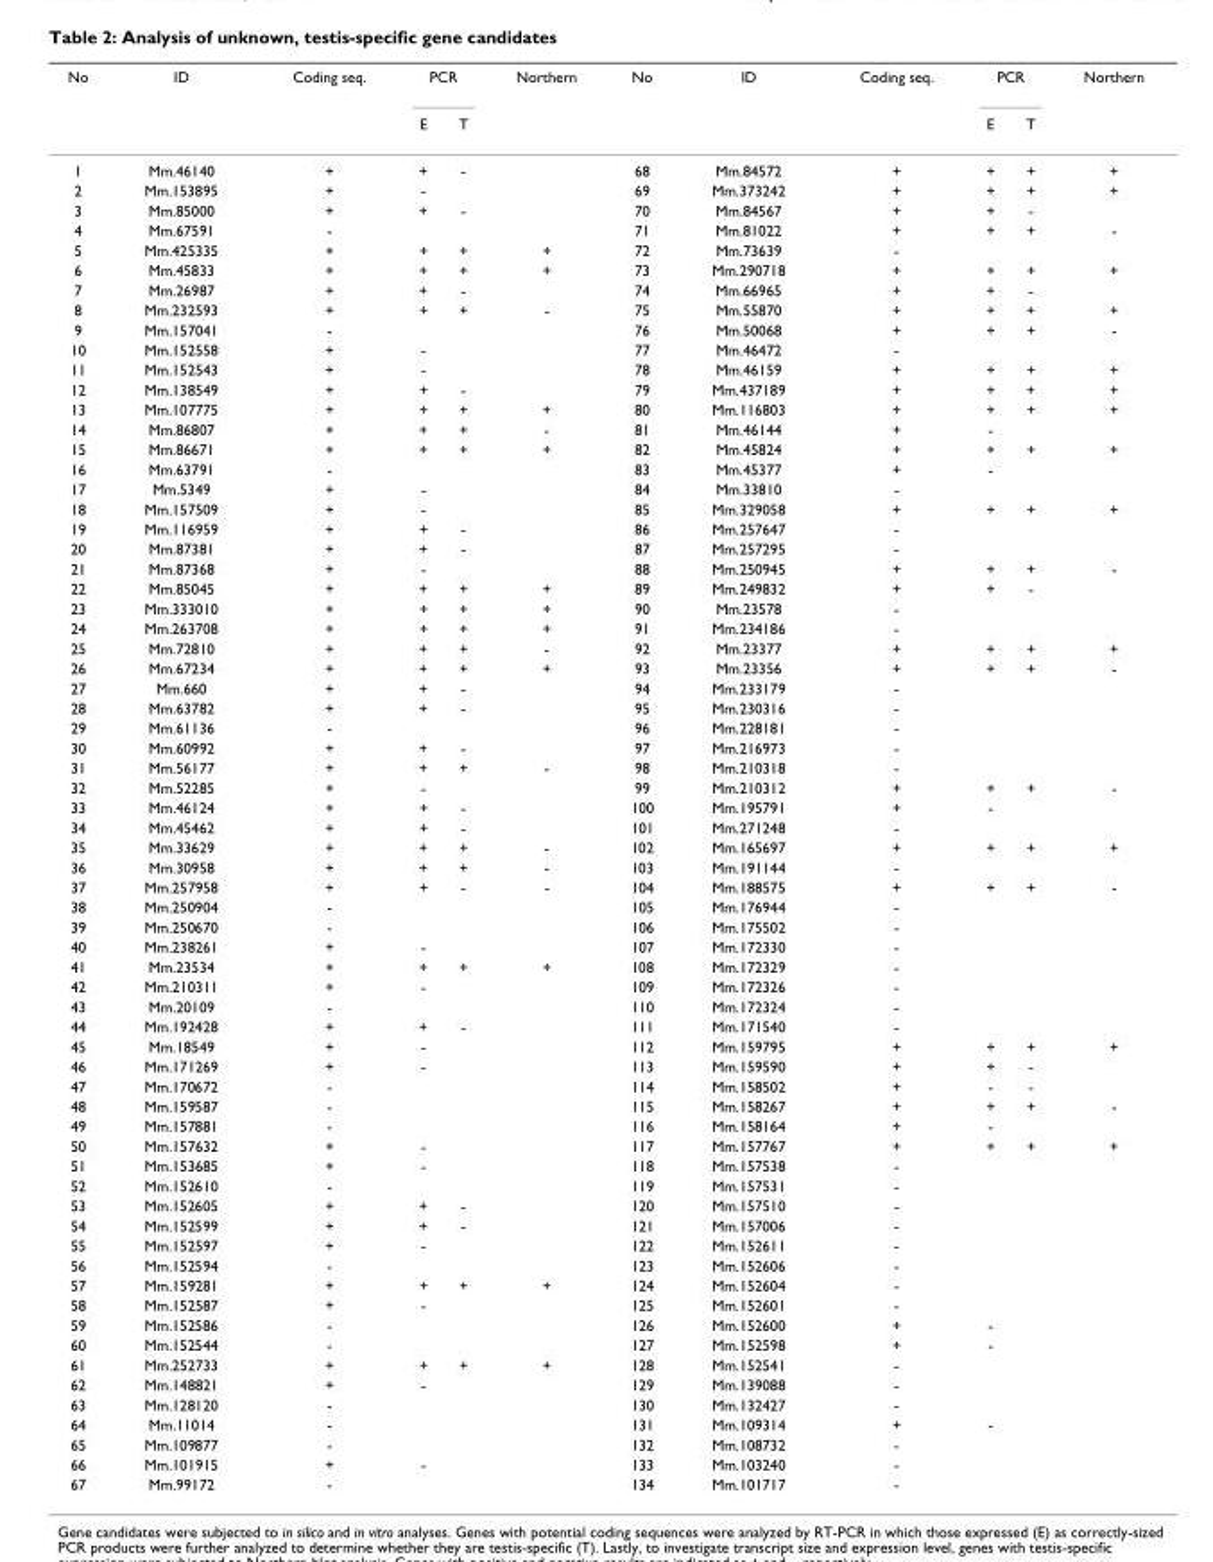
<table><thead><tr><td rowspan="2">No</td><td rowspan="2">ID</td><td rowspan="2">Coding seq.</td><td colspan="2">PCR</td><td rowspan="2">Northern</td><td rowspan="2">No</td><td rowspan="2">ID</td><td rowspan="2">Coding seq.</td><td colspan="2">PCR</td><td rowspan="2">Northern</td></tr><tr><td>E</td><td>T</td><td>E</td><td>T</td></tr></thead><tbody><tr><td>1</td><td>Mm.46140</td><td>+</td><td>+</td><td>-</td><td></td><td>68</td><td>Mm.84572</td><td>+</td><td>+</td><td>+</td><td>+</td></tr><tr><td>2</td><td>Mm.153895</td><td>+</td><td>-</td><td></td><td></td><td>69</td><td>Mm.373242</td><td>+</td><td>+</td><td>+</td><td>+</td></tr><tr><td>3</td><td>Mm.85000</td><td>+</td><td>+</td><td>-</td><td></td><td>70</td><td>Mm.84567</td><td>+</td><td>+</td><td>-</td><td></td></tr><tr><td>4</td><td>Mm.67591</td><td>-</td><td></td><td></td><td></td><td>71</td><td>Mm.81022</td><td>+</td><td>+</td><td>+</td><td>-</td></tr><tr><td>5</td><td>Mm.425335</td><td>+</td><td>+</td><td>+</td><td>+</td><td>72</td><td>Mm.73639</td><td>-</td><td></td><td></td><td></td></tr><tr><td>6</td><td>Mm.45833</td><td>+</td><td>+</td><td>+</td><td>+</td><td>73</td><td>Mm.290718</td><td>+</td><td>+</td><td>+</td><td>+</td></tr><tr><td>7</td><td>Mm.26987</td><td>+</td><td>+</td><td>-</td><td></td><td>74</td><td>Mm.66965</td><td>+</td><td>+</td><td>-</td><td></td></tr><tr><td>8</td><td>Mm.232593</td><td>+</td><td>+</td><td>+</td><td>-</td><td>75</td><td>Mm.55870</td><td>+</td><td>+</td><td>+</td><td>+</td></tr><tr><td>9</td><td>Mm.157041</td><td>-</td><td></td><td></td><td></td><td>76</td><td>Mm.50068</td><td>+</td><td>+</td><td>+</td><td>-</td></tr><tr><td>10</td><td>Mm.152558</td><td>+</td><td>-</td><td></td><td></td><td>77</td><td>Mm.46472</td><td>-</td><td></td><td></td><td></td></tr><tr><td>11</td><td>Mm.152543</td><td>+</td><td>-</td><td></td><td></td><td>78</td><td>Mm.46159</td><td>+</td><td>+</td><td>+</td><td>+</td></tr><tr><td>12</td><td>Mm.138549</td><td>+</td><td>+</td><td>-</td><td></td><td>79</td><td>Mm.437189</td><td>+</td><td>+</td><td>+</td><td>+</td></tr><tr><td>13</td><td>Mm.107775</td><td>+</td><td>+</td><td>+</td><td>+</td><td>80</td><td>Mm.116803</td><td>+</td><td>+</td><td>+</td><td>+</td></tr><tr><td>14</td><td>Mm.86807</td><td>+</td><td>+</td><td>+</td><td>-</td><td>81</td><td>Mm.46144</td><td>+</td><td>-</td><td></td><td></td></tr><tr><td>15</td><td>Mm.86671</td><td>+</td><td>+</td><td>+</td><td>+</td><td>82</td><td>Mm.45824</td><td>+</td><td>+</td><td>+</td><td>+</td></tr><tr><td>16</td><td>Mm.63791</td><td>-</td><td></td><td></td><td></td><td>83</td><td>Mm.45377</td><td>+</td><td>-</td><td></td><td></td></tr><tr><td>17</td><td>Mm.5349</td><td>+</td><td>-</td><td></td><td></td><td>84</td><td>Mm.33810</td><td>-</td><td></td><td></td><td></td></tr><tr><td>18</td><td>Mm.157509</td><td>+</td><td>-</td><td></td><td></td><td>85</td><td>Mm.329058</td><td>+</td><td>+</td><td>+</td><td>+</td></tr><tr><td>19</td><td>Mm.116959</td><td>+</td><td>+</td><td>-</td><td></td><td>86</td><td>Mm.257647</td><td>-</td><td></td><td></td><td></td></tr><tr><td>20</td><td>Mm.87381</td><td>+</td><td>+</td><td>-</td><td></td><td>87</td><td>Mm.257295</td><td>-</td><td></td><td></td><td></td></tr><tr><td>21</td><td>Mm.87368</td><td>+</td><td>-</td><td></td><td></td><td>88</td><td>Mm.250945</td><td>+</td><td>+</td><td>+</td><td>-</td></tr><tr><td>22</td><td>Mm.85045</td><td>+</td><td>+</td><td>+</td><td>+</td><td>89</td><td>Mm.249832</td><td>+</td><td>+</td><td>-</td><td></td></tr><tr><td>23</td><td>Mm.333010</td><td>+</td><td>+</td><td>+</td><td>+</td><td>90</td><td>Mm.23578</td><td>-</td><td></td><td></td><td></td></tr><tr><td>24</td><td>Mm.263708</td><td>+</td><td>+</td><td>+</td><td>+</td><td>91</td><td>Mm.234186</td><td>-</td><td></td><td></td><td></td></tr><tr><td>25</td><td>Mm.72810</td><td>+</td><td>+</td><td>+</td><td>-</td><td>92</td><td>Mm.23377</td><td>+</td><td>+</td><td>+</td><td>+</td></tr><tr><td>26</td><td>Mm.67234</td><td>+</td><td>+</td><td>+</td><td>+</td><td>93</td><td>Mm.23356</td><td>+</td><td>+</td><td>+</td><td>-</td></tr><tr><td>27</td><td>Mm.660</td><td>+</td><td>+</td><td>-</td><td></td><td>94</td><td>Mm.233179</td><td>-</td><td></td><td></td><td></td></tr><tr><td>28</td><td>Mm.63782</td><td>+</td><td>+</td><td>-</td><td></td><td>95</td><td>Mm.230316</td><td>-</td><td></td><td></td><td></td></tr><tr><td>29</td><td>Mm.61136</td><td>-</td><td></td><td></td><td></td><td>96</td><td>Mm.228181</td><td>-</td><td></td><td></td><td></td></tr><tr><td>30</td><td>Mm.60992</td><td>+</td><td>+</td><td>-</td><td></td><td>97</td><td>Mm.216973</td><td>-</td><td></td><td></td><td></td></tr><tr><td>31</td><td>Mm.56177</td><td>+</td><td>+</td><td>+</td><td>-</td><td>98</td><td>Mm.210318</td><td>-</td><td></td><td></td><td></td></tr><tr><td>32</td><td>Mm.52285</td><td>+</td><td>-</td><td></td><td></td><td>99</td><td>Mm.210312</td><td>+</td><td>+</td><td>+</td><td>-</td></tr><tr><td>33</td><td>Mm.46124</td><td>+</td><td>+</td><td>-</td><td></td><td>100</td><td>Mm.195791</td><td>+</td><td>-</td><td></td><td></td></tr><tr><td>34</td><td>Mm.45462</td><td>+</td><td>+</td><td>-</td><td></td><td>101</td><td>Mm.271248</td><td>-</td><td></td><td></td><td></td></tr><tr><td>35</td><td>Mm.33629</td><td>+</td><td>+</td><td>+</td><td>-</td><td>102</td><td>Mm.165697</td><td>+</td><td>+</td><td>+</td><td>+</td></tr><tr><td>36</td><td>Mm.30958</td><td>+</td><td>+</td><td>+</td><td>-</td><td>103</td><td>Mm.191144</td><td>-</td><td></td><td></td><td></td></tr><tr><td>37</td><td>Mm.257958</td><td>+</td><td>+</td><td>-</td><td>-</td><td>104</td><td>Mm.188575</td><td>+</td><td>+</td><td>+</td><td>-</td></tr><tr><td>38</td><td>Mm.250904</td><td>-</td><td></td><td></td><td></td><td>105</td><td>Mm.176944</td><td>-</td><td></td><td></td><td></td></tr><tr><td>39</td><td>Mm.250670</td><td>-</td><td></td><td></td><td></td><td>106</td><td>Mm.175502</td><td>-</td><td></td><td></td><td></td></tr><tr><td>40</td><td>Mm.238261</td><td>+</td><td>-</td><td></td><td></td><td>107</td><td>Mm.172330</td><td>-</td><td></td><td></td><td></td></tr><tr><td>41</td><td>Mm.23534</td><td>+</td><td>+</td><td>+</td><td>+</td><td>108</td><td>Mm.172329</td><td>-</td><td></td><td></td><td></td></tr><tr><td>42</td><td>Mm.210311</td><td>+</td><td>-</td><td></td><td></td><td>109</td><td>Mm.172326</td><td>-</td><td></td><td></td><td></td></tr><tr><td>43</td><td>Mm.20109</td><td>-</td><td></td><td></td><td></td><td>110</td><td>Mm.172324</td><td>-</td><td></td><td></td><td></td></tr><tr><td>44</td><td>Mm.192428</td><td>+</td><td>+</td><td>-</td><td></td><td>111</td><td>Mm.171540</td><td>-</td><td></td><td></td><td></td></tr><tr><td>45</td><td>Mm.18549</td><td>+</td><td>-</td><td></td><td></td><td>112</td><td>Mm.159795</td><td>+</td><td>+</td><td>+</td><td>+</td></tr><tr><td>46</td><td>Mm.171269</td><td>+</td><td>-</td><td></td><td></td><td>113</td><td>Mm.159590</td><td>+</td><td>+</td><td>-</td><td></td></tr><tr><td>47</td><td>Mm.170672</td><td>-</td><td></td><td></td><td></td><td>114</td><td>Mm.158502</td><td>+</td><td>-</td><td>-</td><td></td></tr><tr><td>48</td><td>Mm.159587</td><td>-</td><td></td><td></td><td></td><td>115</td><td>Mm.158267</td><td>+</td><td>+</td><td>+</td><td>-</td></tr><tr><td>49</td><td>Mm.157881</td><td>-</td><td></td><td></td><td></td><td>116</td><td>Mm.158164</td><td>+</td><td>-</td><td></td><td></td></tr><tr><td>50</td><td>Mm.157632</td><td>+</td><td>-</td><td></td><td></td><td>117</td><td>Mm.157767</td><td>+</td><td>+</td><td>+</td><td>+</td></tr><tr><td>51</td><td>Mm.153685</td><td>+</td><td>-</td><td></td><td></td><td>118</td><td>Mm.157538</td><td>-</td><td></td><td></td><td></td></tr><tr><td>52</td><td>Mm.152610</td><td>-</td><td></td><td></td><td></td><td>119</td><td>Mm.157531</td><td>-</td><td></td><td></td><td></td></tr><tr><td>53</td><td>Mm.152605</td><td>+</td><td>+</td><td>-</td><td></td><td>120</td><td>Mm.157510</td><td>-</td><td></td><td></td><td></td></tr><tr><td>54</td><td>Mm.152599</td><td>+</td><td>+</td><td>-</td><td></td><td>121</td><td>Mm.157006</td><td>-</td><td></td><td></td><td></td></tr><tr><td>55</td><td>Mm.152597</td><td>+</td><td>-</td><td></td><td></td><td>122</td><td>Mm.152611</td><td>-</td><td></td><td></td><td></td></tr><tr><td>56</td><td>Mm.152594</td><td>-</td><td></td><td></td><td></td><td>123</td><td>Mm.152606</td><td>-</td><td></td><td></td><td></td></tr><tr><td>57</td><td>Mm.159281</td><td>+</td><td>+</td><td>+</td><td>+</td><td>124</td><td>Mm.152604</td><td>-</td><td></td><td></td><td></td></tr><tr><td>58</td><td>Mm.152587</td><td>+</td><td>-</td><td></td><td></td><td>125</td><td>Mm.152601</td><td>-</td><td></td><td></td><td></td></tr><tr><td>59</td><td>Mm.152586</td><td>-</td><td></td><td></td><td></td><td>126</td><td>Mm.152600</td><td>+</td><td>-</td><td></td><td></td></tr><tr><td>60</td><td>Mm.152544</td><td>-</td><td></td><td></td><td></td><td>127</td><td>Mm.152598</td><td>+</td><td>-</td><td></td><td></td></tr><tr><td>61</td><td>Mm.252733</td><td>+</td><td>+</td><td>+</td><td>+</td><td>128</td><td>Mm.152541</td><td>-</td><td></td><td></td><td></td></tr><tr><td>62</td><td>Mm.148821</td><td>+</td><td>-</td><td></td><td></td><td>129</td><td>Mm.139088</td><td>-</td><td></td><td></td><td></td></tr><tr><td>63</td><td>Mm.128120</td><td>-</td><td></td><td></td><td></td><td>130</td><td>Mm.132427</td><td>-</td><td></td><td></td><td></td></tr><tr><td>64</td><td>Mm.11014</td><td>-</td><td></td><td></td><td></td><td>131</td><td>Mm.109314</td><td>+</td><td>-</td><td></td><td></td></tr><tr><td>65</td><td>Mm.109877</td><td>-</td><td></td><td></td><td></td><td>132</td><td>Mm.108732</td><td>-</td><td></td><td></td><td></td></tr><tr><td>66</td><td>Mm.101915</td><td>+</td><td>-</td><td></td><td></td><td>133</td><td>Mm.103240</td><td>-</td><td></td><td></td><td></td></tr><tr><td>67</td><td>Mm.99172</td><td>-</td><td></td><td></td><td></td><td>134</td><td>Mm.101717</td><td>-</td><td></td><td></td><td></td></tr></tbody></table>